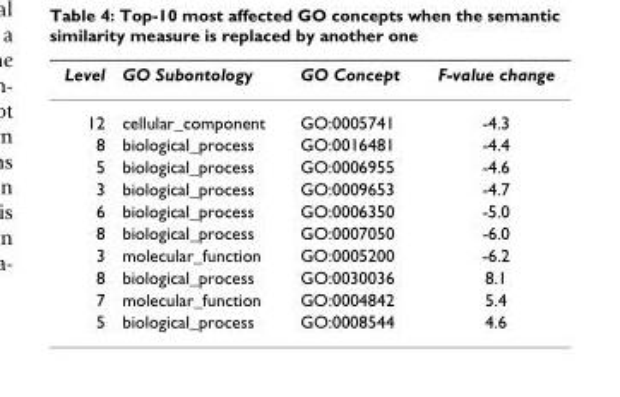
<table><thead><tr><td>Level</td><td>GO Subontology</td><td>GO Concept</td><td>F-value change</td></tr></thead><tbody><tr><td>12</td><td>cellular_component</td><td>GO:0005741</td><td>-4.3</td></tr><tr><td>8</td><td>biological_process</td><td>GO:0016481</td><td>-4.4</td></tr><tr><td>5</td><td>biological_process</td><td>GO:0006955</td><td>-4.6</td></tr><tr><td>3</td><td>biological_process</td><td>GO:0009653</td><td>-4.7</td></tr><tr><td>6</td><td>biological_process</td><td>GO:0006350</td><td>-5.0</td></tr><tr><td>8</td><td>biological_process</td><td>GO:0007050</td><td>-6.0</td></tr><tr><td>3</td><td>molecular_function</td><td>GO:0005200</td><td>-6.2</td></tr><tr><td>8</td><td>biological_process</td><td>GO:0030036</td><td>8.1</td></tr><tr><td>7</td><td>molecular_function</td><td>GO:0004842</td><td>5.4</td></tr><tr><td>5</td><td>biological_process</td><td>GO:0008544</td><td>4.6</td></tr></tbody></table>